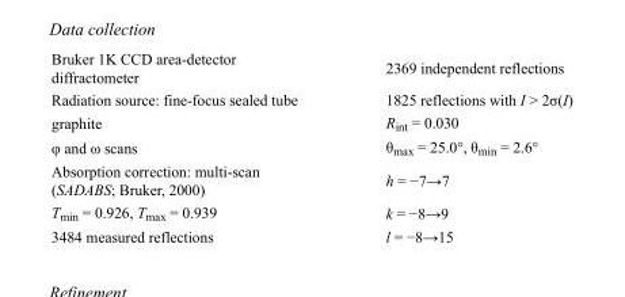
<table><tbody><tr><td>Bruker 1K CCD area-detector diffractometer</td><td>2369 independent reflections</td></tr><tr><td>Radiation source: fine-focus sealed tube</td><td>1825 reflections with I &gt; 2σ(I)</td></tr><tr><td>graphite</td><td>R<sub>int</sub> = 0.030</td></tr><tr><td>φ and ω scans</td><td>θ<sub>max</sub> = 25.0°, θ<sub>min</sub> = 2.6°</td></tr><tr><td>Absorption correction: multi-scan (SADABS; Bruker, 2000)</td><td>h = −7→7</td></tr><tr><td>T<sub>min</sub> = 0.926, T<sub>max</sub> = 0.939</td><td>k = −8→9</td></tr><tr><td>3484 measured reflections</td><td>l = −8→15</td></tr></tbody></table>